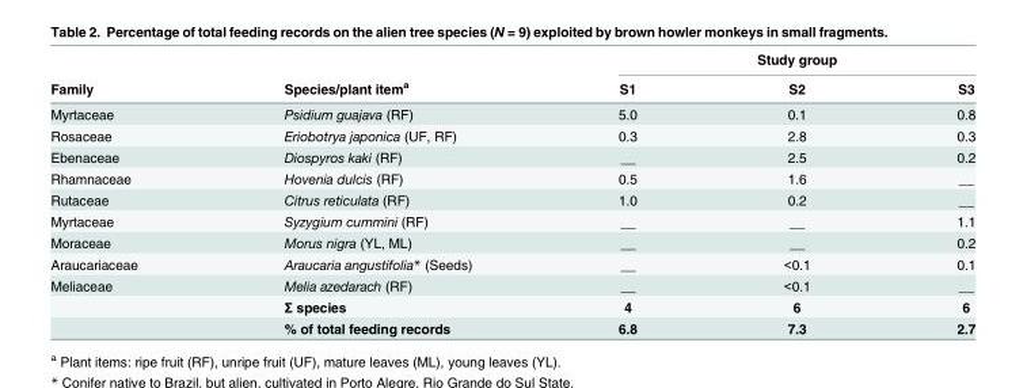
<table><thead><tr><td rowspan="2">Family</td><td rowspan="2">Species/plant item<sup>a</sup></td><td colspan="3">Study group</td></tr><tr><td>S1</td><td>S2</td><td>S3</td></tr></thead><tbody><tr><td>Myrtaceae</td><td>Psidium guajava (RF)</td><td>5.0</td><td>0.1</td><td>0.8</td></tr><tr><td>Rosaceae</td><td>Eriobotrya japonica (UF, RF)</td><td>0.3</td><td>2.8</td><td>0.3</td></tr><tr><td>Ebenaceae</td><td>Diospyros kaki (RF)</td><td>__</td><td>2.5</td><td>0.2</td></tr><tr><td>Rhamnaceae</td><td>Hovenia dulcis (RF)</td><td>0.5</td><td>1.6</td><td>__</td></tr><tr><td>Rutaceae</td><td>Citrus reticulata (RF)</td><td>1.0</td><td>0.2</td><td>__</td></tr><tr><td>Myrtaceae</td><td>Syzygium cummini (RF)</td><td>__</td><td>__</td><td>1.1</td></tr><tr><td>Moraceae</td><td>Morus nigra (YL, ML)</td><td>__</td><td>__</td><td>0.2</td></tr><tr><td>Araucariaceae</td><td>Araucaria angustifolia* (Seeds)</td><td>__</td><td>&lt;0.1</td><td>0.1</td></tr><tr><td rowspan="3">Meliaceae</td><td>Melia azedarach (RF)</td><td>__</td><td>&lt;0.1</td><td>__</td></tr><tr><td>Σ species</td><td>4</td><td>6</td><td>6</td></tr><tr><td>% of total feeding records</td><td>6.8</td><td>7.3</td><td>2.7</td></tr></tbody></table>